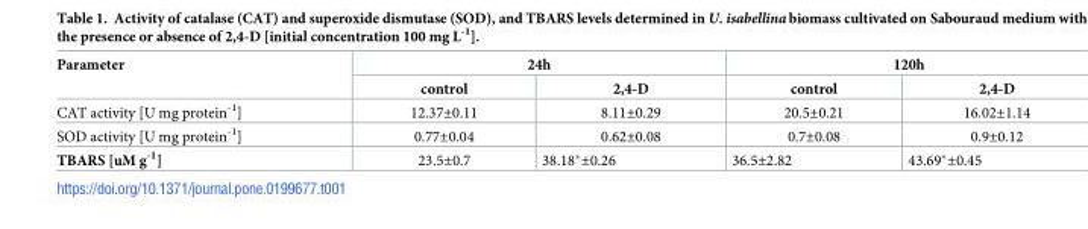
<table><thead><tr><td rowspan="2">Parameter</td><td colspan="2">24h</td><td colspan="2">120h</td></tr><tr><td>control</td><td>2,4-D</td><td>control</td><td>2,4-D</td></tr></thead><tbody><tr><td>CAT activity [U mg protein<sup>-1</sup>]</td><td>12.37±0.11</td><td>8.11±0.29</td><td>20.5±0.21</td><td>16.02±1.14</td></tr><tr><td>SOD activity [U mg protein<sup>-1</sup>]</td><td>0.77±0.04</td><td>0.62±0.08</td><td>0.7±0.08</td><td>0.9±0.12</td></tr><tr><td>TBARS [uM g<sup>-1</sup>]</td><td>23.5±0.7</td><td>38.18*±0.26</td><td>36.5±2.82</td><td>43.69*±0.45</td></tr></tbody></table>